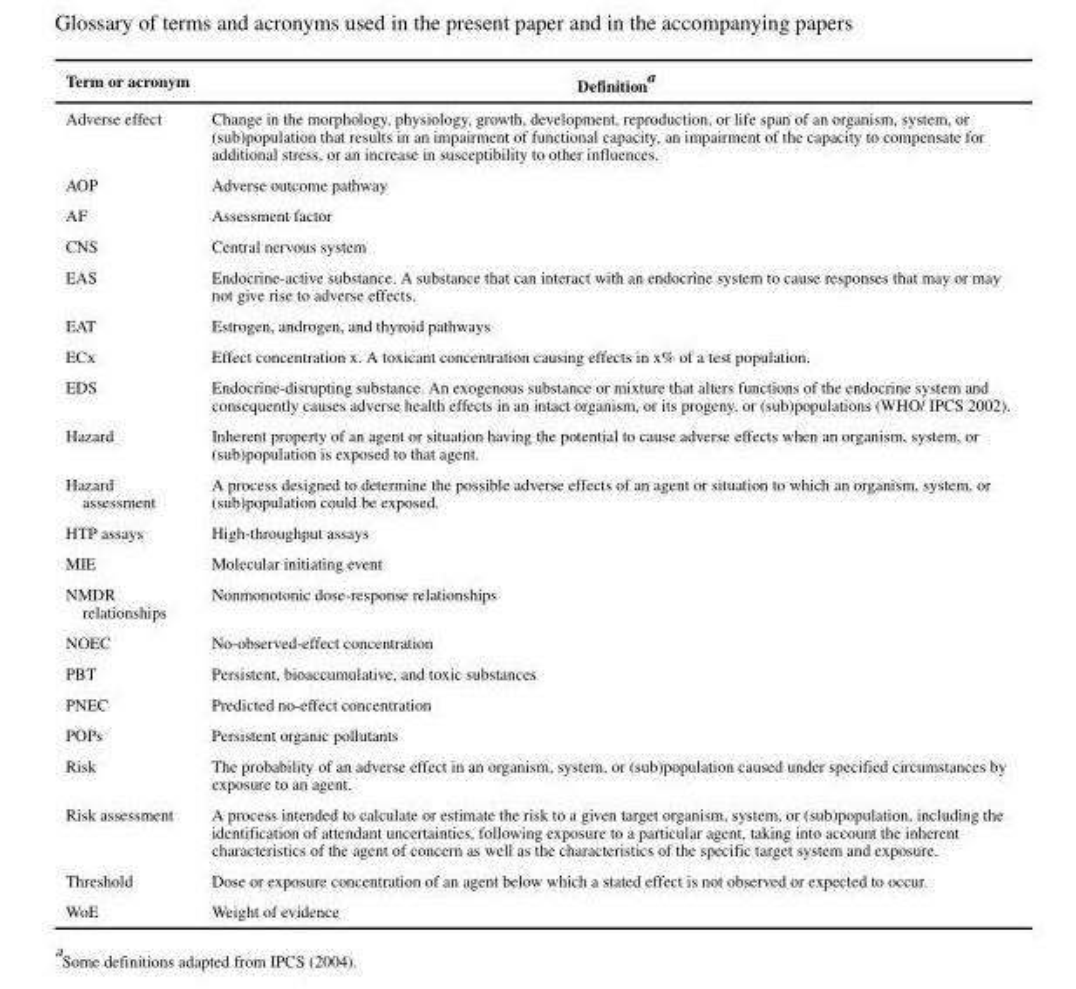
<table><thead><tr><td>Term or acronym</td><td>Definition<sup>a</sup></td></tr></thead><tbody><tr><td>Adverse effect</td><td>Change in the morphology, physiology, growth, development, reproduction, or life span of an organism, system, or (sub)population that results in an impairment of functional capacity, an impairment of the capacity to compensate for additional stress, or an increase in susceptibility to other influences.</td></tr><tr><td>AOP</td><td>Adverse outcome pathway</td></tr><tr><td>AF</td><td>Assessment factor</td></tr><tr><td>CNS</td><td>Central nervous system</td></tr><tr><td>EAS</td><td>Endocrine-active substance. A substance that can interact with an endocrine system to cause responses that may or may not give rise to adverse effects.</td></tr><tr><td>EAT</td><td>Estrogen, androgen, and thyroid pathways</td></tr><tr><td>ECx</td><td>Effect concentration x. A toxicant concentration causing effects in x% of a test population.</td></tr><tr><td>EDS</td><td>Endocrine-disrupting substance. An exogenous substance or mixture that alters functions of the endocrine system and consequently causes adverse health effects in an intact organism, or its progeny, or (sub)populations (WHO/ IPCS 2002).</td></tr><tr><td>Hazard</td><td>Inherent property of an agent or situation having the potential to cause adverse effects when an organism, system, or (sub)population is exposed to that agent.</td></tr><tr><td>Hazard assessment</td><td>A process designed to determine the possible adverse effects of an agent or situation to which an organism, system, or (sub)population could be exposed.</td></tr><tr><td>HTP assays</td><td>High-throughput assays</td></tr><tr><td>MIE</td><td>Molecular initiating event</td></tr><tr><td>NMDR relationships</td><td>Nonmonotonic dose-response relationships</td></tr><tr><td>NOEC</td><td>No-observed-effect concentration</td></tr><tr><td>PBT</td><td>Persistent, bioaccumulative, and toxic substances</td></tr><tr><td>PNEC</td><td>Predicted no-effect concentration</td></tr><tr><td>POPs</td><td>Persistent organic pollutants</td></tr><tr><td>Risk</td><td>The probability of an adverse effect in an organism, system, or (sub)population caused under specified circumstances by exposure to an agent.</td></tr><tr><td>Risk assessment</td><td>A process intended to calculate or estimate the risk to a given target organism, system, or (sub)population, including the identification of attendant uncertainties, following exposure to a particular agent, taking into account the inherent characteristics of the agent of concern as well as the characteristics of the specific target system and exposure.</td></tr><tr><td>Threshold</td><td>Dose or exposure concentration of an agent below which a stated effect is not observed or expected to occur.</td></tr><tr><td>WoE</td><td>Weight of evidence</td></tr></tbody></table>